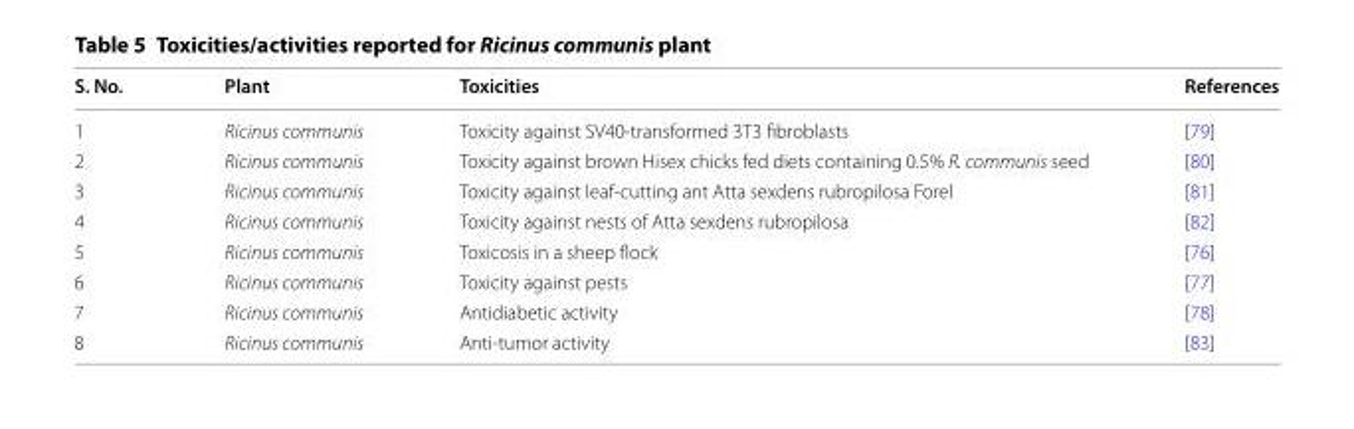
<table><thead><tr><td>S. No.</td><td>Plant</td><td>Toxicities</td><td>References</td></tr></thead><tbody><tr><td>1</td><td>Ricinus communis</td><td>Toxicity against SV40-transformed 3T3 fibroblasts</td><td>[79]</td></tr><tr><td>2</td><td>Ricinus communis</td><td>Toxicity against brown Hisex chicks fed diets containing 0.5% R. communis seed</td><td>[80]</td></tr><tr><td>3</td><td>Ricinus communis</td><td>Toxicity against leaf-cutting ant Atta sexdens rubropilosa Forel</td><td>[81]</td></tr><tr><td>4</td><td>Ricinus communis</td><td>Toxicity against nests of Atta sexdens rubropilosa</td><td>[82]</td></tr><tr><td>5</td><td>Ricinus communis</td><td>Toxicosis in a sheep flock</td><td>[76]</td></tr><tr><td>6</td><td>Ricinus communis</td><td>Toxicity against pests</td><td>[77]</td></tr><tr><td>7</td><td>Ricinus communis</td><td>Antidiabetic activity</td><td>[78]</td></tr><tr><td>8</td><td>Ricinus communis</td><td>Anti-tumor activity</td><td>[83]</td></tr></tbody></table>